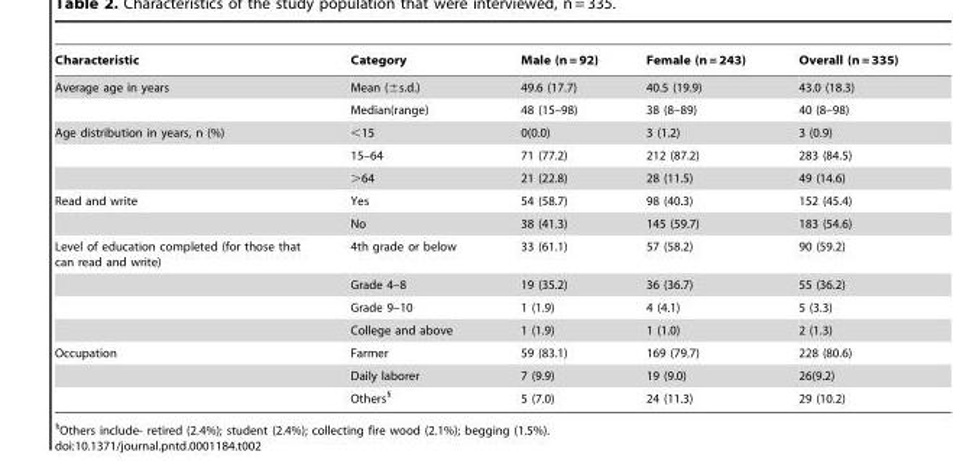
<table><thead><tr><td>Characteristic</td><td>Category</td><td>Male (n = 92)</td><td>Female (n = 243)</td><td>Overall (n = 335)</td></tr></thead><tbody><tr><td rowspan="2">Average age in years</td><td>Mean (±s.d.)</td><td>49.6 (17.7)</td><td>40.5 (19.9)</td><td>43.0 (18.3)</td></tr><tr><td>Median(range)</td><td>48 (15–98)</td><td>38 (8–89)</td><td>40 (8–98)</td></tr><tr><td rowspan="3">Age distribution in years, n (%)</td><td>&lt;15</td><td>0(0.0)</td><td>3 (1.2)</td><td>3 (0.9)</td></tr><tr><td>15–64</td><td>71 (77.2)</td><td>212 (87.2)</td><td>283 (84.5)</td></tr><tr><td>&gt;64</td><td>21 (22.8)</td><td>28 (11.5)</td><td>49 (14.6)</td></tr><tr><td rowspan="2">Read and write</td><td>Yes</td><td>54 (58.7)</td><td>98 (40.3)</td><td>152 (45.4)</td></tr><tr><td>No</td><td>38 (41.3)</td><td>145 (59.7)</td><td>183 (54.6)</td></tr><tr><td rowspan="4">Level of education completed (for those that can read and write)</td><td>4th grade or below</td><td>33 (61.1)</td><td>57 (58.2)</td><td>90 (59.2)</td></tr><tr><td>Grade 4–8</td><td>19 (35.2)</td><td>36 (36.7)</td><td>55 (36.2)</td></tr><tr><td>Grade 9–10</td><td>1 (1.9)</td><td>4 (4.1)</td><td>5 (3.3)</td></tr><tr><td>College and above</td><td>1 (1.9)</td><td>1 (1.0)</td><td>2 (1.3)</td></tr><tr><td rowspan="3">Occupation</td><td>Farmer</td><td>59 (83.1)</td><td>169 (79.7)</td><td>228 (80.6)</td></tr><tr><td>Daily laborer</td><td>7 (9.9)</td><td>19 (9.0)</td><td>26(9.2)</td></tr><tr><td>Others§</td><td>5 (7.0)</td><td>24 (11.3)</td><td>29 (10.2)</td></tr></tbody></table>